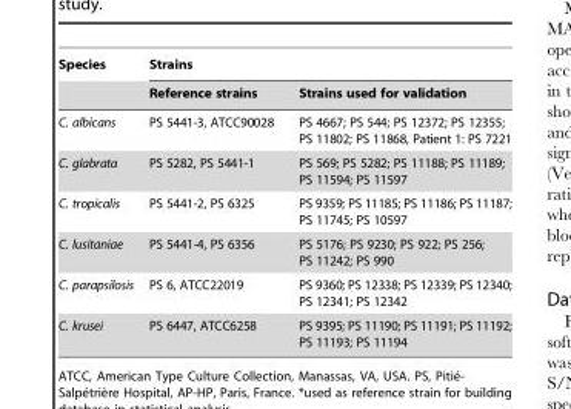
<table><thead><tr><td rowspan="2">Species</td><td colspan="2">Strains</td></tr><tr><td>Reference strains</td><td>Strains used for validation</td></tr></thead><tbody><tr><td>C. albicans</td><td>PS 5441-3, ATCC90028</td><td>PS 4667; PS 544; PS 12372; PS 12355; PS 11802; PS 11868, Patient 1: PS 7221</td></tr><tr><td>C. glabrata</td><td>PS 5282, PS 5441-1</td><td>PS 569; PS 5282; PS 11188; PS 11189; PS 11594; PS 11597</td></tr><tr><td>C. tropicalis</td><td>PS 5441-2, PS 6325</td><td>PS 9359; PS 11185; PS 11186; PS 11187; PS 11745; PS 10597</td></tr><tr><td>C. lusitaniae</td><td>PS 5441-4, PS 6356</td><td>PS 5176; PS 9230; PS 922; PS 256; PS 11242; PS 990</td></tr><tr><td>C. parapsilosis</td><td>PS 6, ATCC22019</td><td>PS 9360; PS 12338; PS 12339; PS 12340; PS 12341; PS 12342</td></tr><tr><td>C. krusei</td><td>PS 6447, ATCC6258</td><td>PS 9395; PS 11190; PS 11191; PS 11192; PS 11193; PS 11194</td></tr></tbody></table>